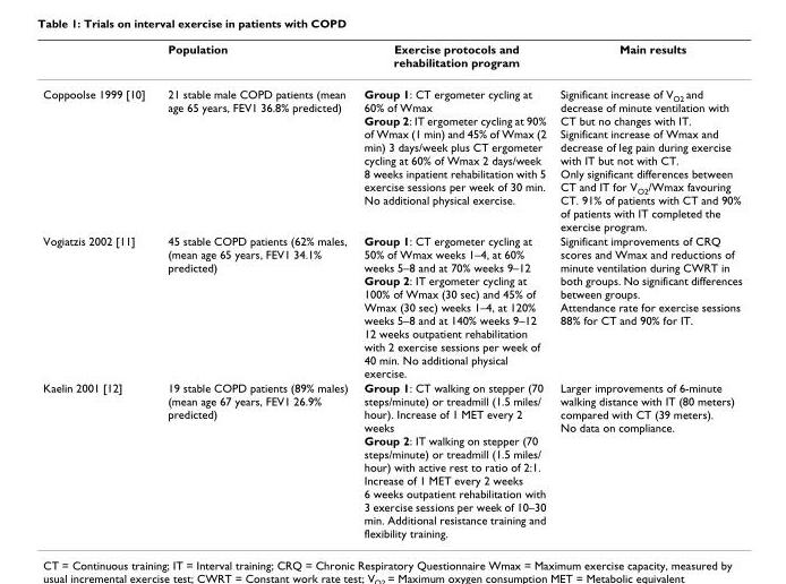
<table><thead><tr><td></td><td>Population</td><td>Exercise protocols and rehabilitation program</td><td>Main results</td></tr></thead><tbody><tr><td>Coppoolse 1999 [10]</td><td>21 stable male COPD patients (mean age 65 years, FEV1 36.8% predicted)</td><td>Group 1: CT ergometer cycling at 60% of Wmax Group 2: IT ergometer cycling at 90% of Wmax (1 min) and 45% of Wmax (2 min) 3 days/week plus CT ergometer cycling at 60% of Wmax 2 days/week 8 weeks inpatient rehabilitation with 5 exercise sessions per week of 30 min. No additional physical exercise.</td><td>Significant increase of V<sub>O2</sub> and decrease of minute ventilation with CT but no changes with IT. Significant increase of Wmax and decrease of leg pain during exercise with IT but not with CT. Only significant differences between CT and IT for V<sub>O2</sub>/Wmax favouring CT. 91% of patients with CT and 90% of patients with IT completed the exercise program.</td></tr><tr><td>Vogiatzis 2002 [11]</td><td>45 stable COPD patients (62% males, (mean age 65 years, FEV1 34.1% predicted)</td><td>Group 1: CT ergometer cycling at 50% of Wmax weeks 1–4, at 60% weeks 5–8 and at 70% weeks 9–12 Group 2: IT ergometer cycling at 100% of Wmax (30 sec) and 45% of Wmax (30 sec) weeks 1–4, at 120% weeks 5–8 and at 140% weeks 9–12 12 weeks outpatient rehabilitation with 2 exercise sessions per week of 40 min. No additional physical exercise.</td><td>Significant improvements of CRQ scores and Wmax and reductions of minute ventilation during CWRT in both groups. No significant differences between groups. Attendance rate for exercise sessions 88% for CT and 90% for IT.</td></tr><tr><td>Kaelin 2001 [12]</td><td>19 stable COPD patients (89% males) (mean age 67 years, FEV1 26.9% predicted)</td><td>Group 1: CT walking on stepper (70 steps/minute) or treadmill (1.5 miles/ hour). Increase of 1 MET every 2 weeks Group 2: IT walking on stepper (70 steps/minute) or treadmill (1.5 miles/ hour) with active rest to ratio of 2:1. Increase of 1 MET every 2 weeks 6 weeks outpatient rehabilitation with 3 exercise sessions per week of 10–30 min. Additional resistance training and flexibility training.</td><td>Larger improvements of 6-minute walking distance with IT (80 meters) compared with CT (39 meters). No data on compliance.</td></tr></tbody></table>